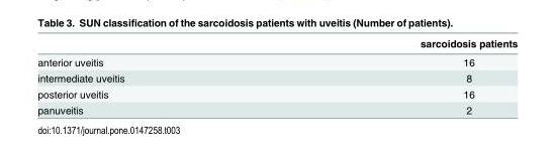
<table><thead><tr><td></td><td>sarcoidosis patients</td></tr></thead><tbody><tr><td>anterior uveitis</td><td>16</td></tr><tr><td>intermediate uveitis</td><td>8</td></tr><tr><td>posterior uveitis</td><td>16</td></tr><tr><td>panuveitis</td><td>2</td></tr></tbody></table>